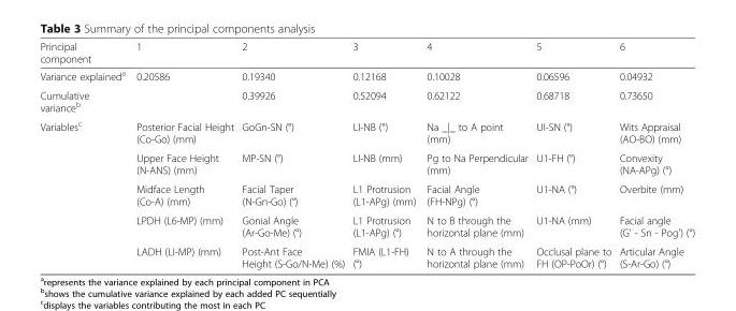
<table><thead><tr><td>Principal component</td><td>1</td><td>2</td><td>3</td><td>4</td><td>5</td><td>6</td></tr></thead><tbody><tr><td>Variance explained<sup>a</sup></td><td>0.20586</td><td>0.19340</td><td>0.12168</td><td>0.10028</td><td>0.06596</td><td>0.04932</td></tr><tr><td>Cumulative variance<sup>b</sup></td><td></td><td>0.39926</td><td>0.52094</td><td>0.62122</td><td>0.68718</td><td>0.73650</td></tr><tr><td rowspan="5">Variables<sup>c</sup></td><td>Posterior Facial Height (Co-Go) (mm)</td><td>GoGn-SN (°)</td><td>LI-NB (°)</td><td>Na _|_ to A point (mm)</td><td>UI-SN (°)</td><td>Wits Appraisal (AO-BO) (mm)</td></tr><tr><td>Upper Face Height (N-ANS) (mm)</td><td>MP-SN (°)</td><td>LI-NB (mm)</td><td>Pg to Na Perpendicular (mm)</td><td>U1-FH (°)</td><td>Convexity (NA-APg) (°)</td></tr><tr><td>Midface Length (Co-A) (mm)</td><td>Facial Taper (N-Gn-Go) (°)</td><td>L1 Protrusion (L1-APg) (mm)</td><td>Facial Angle (FH-NPg) (°)</td><td>U1-NA (°)</td><td>Overbite (mm)</td></tr><tr><td>LPDH (L6-MP) (mm)</td><td>Gonial Angle (Ar-Go-Me) (°)</td><td>L1 Protrusion (L1-APg) (°)</td><td>N to B through the horizontal plane (mm)</td><td>U1-NA (mm)</td><td>Facial angle (G&#x27; - Sn - Pog&#x27;) (°)</td></tr><tr><td>LADH (LI-MP) (mm)</td><td>Post-Ant Face Height (S-Go/N-Me) (%)</td><td>FMIA (L1-FH) (°)</td><td>N to A through the horizontal plane (mm)</td><td>Occlusal plane to FH (OP-PoOr) (°)</td><td>Articular Angle (S-Ar-Go) (°)</td></tr></tbody></table>